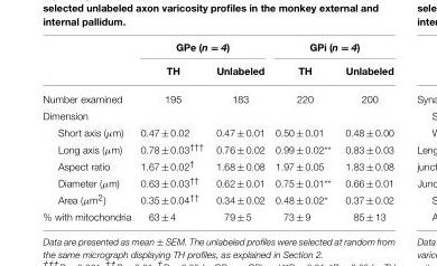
<table><thead><tr><td rowspan="2"></td><td colspan="2">GPe (n = 4)</td><td colspan="2">GPi (n = 4)</td></tr><tr><td>TH</td><td>Unlabeled</td><td>TH</td><td>Unlabeled</td></tr></thead><tbody><tr><td>Number examined</td><td>195</td><td>183</td><td>220</td><td>200</td></tr><tr><td colspan="5">Dimension</td></tr><tr><td>Short axis (µm)</td><td>0.47 ± 0.02</td><td>0.47 ± 0.01</td><td>0.50 ± 0.01</td><td>0.48 ± 0.00</td></tr><tr><td>Long axis (µm)</td><td>0.78 ± 0.03<sup>†††</sup></td><td>0.76 ± 0.02</td><td>0.99 ± 0.02**</td><td>0.83 ± 0.03</td></tr><tr><td>Aspect ratio</td><td>1.67 ± 0.02<sup>†</sup></td><td>1.68 ± 0.08</td><td>1.97 ± 0.05</td><td>1.83 ± 0.08</td></tr><tr><td>Diameter (µm)</td><td>0.63 ± 0.03<sup>††</sup></td><td>0.62 ± 0.01</td><td>0.75 ± 0.01**</td><td>0.66 ± 0.01</td></tr><tr><td>Area (µm<sup>2</sup>)</td><td>0.35 ± 0.04<sup>††</sup></td><td>0.34 ± 0.02</td><td>0.48 ± 0.02*</td><td>0.37 ± 0.02</td></tr><tr><td>% with mitochondria</td><td>63 ± 4</td><td>79 ± 5</td><td>73 ± 9</td><td>85 ± 13</td></tr></tbody></table>